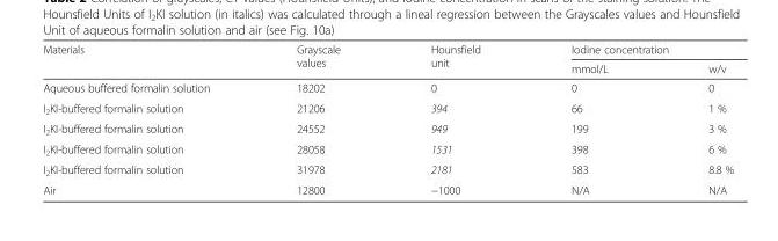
<table><thead><tr><td rowspan="2">Materials</td><td rowspan="2">Grayscale values</td><td rowspan="2">Hounsfield unit</td><td colspan="2">Iodine concentration</td></tr><tr><td>mmol/L</td><td>w/v</td></tr></thead><tbody><tr><td>Aqueous buffered formalin solution</td><td>18202</td><td>0</td><td>0</td><td>0</td></tr><tr><td>I<sub>2</sub>KI-buffered formalin solution</td><td>21206</td><td>394</td><td>66</td><td>1 %</td></tr><tr><td>I<sub>2</sub>KI-buffered formalin solution</td><td>24552</td><td>949</td><td>199</td><td>3 %</td></tr><tr><td>I<sub>2</sub>KI-buffered formalin solution</td><td>28058</td><td>1531</td><td>398</td><td>6 %</td></tr><tr><td>I<sub>2</sub>KI-buffered formalin solution</td><td>31978</td><td>2181</td><td>583</td><td>8.8 %</td></tr><tr><td>Air</td><td>12800</td><td>−1000</td><td>N/A</td><td>N/A</td></tr></tbody></table>